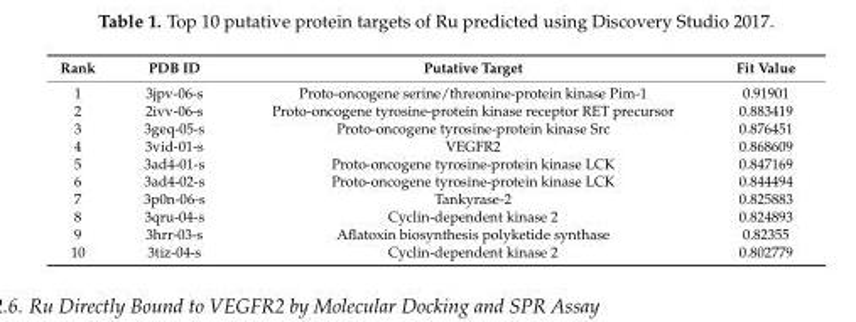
<table><thead><tr><td>Rank</td><td>PDB ID</td><td>Putative Target</td><td>Fit Value</td></tr></thead><tbody><tr><td>1</td><td>3jpv-06-s</td><td>Proto-oncogene serine/threonine-protein kinase Pim-1</td><td>0.91901</td></tr><tr><td>2</td><td>2ivv-06-s</td><td>Proto-oncogene tyrosine-protein kinase receptor RET precursor</td><td>0.883419</td></tr><tr><td>3</td><td>3geq-05-s</td><td>Proto-oncogene tyrosine-protein kinase Src</td><td>0.876451</td></tr><tr><td>4</td><td>3vid-01-s</td><td>VEGFR2</td><td>0.868609</td></tr><tr><td>5</td><td>3ad4-01-s</td><td>Proto-oncogene tyrosine-protein kinase LCK</td><td>0.847169</td></tr><tr><td>6</td><td>3ad4-02-s</td><td>Proto-oncogene tyrosine-protein kinase LCK</td><td>0.844494</td></tr><tr><td>7</td><td>3p0n-06-s</td><td>Tankyrase-2</td><td>0.825883</td></tr><tr><td>8</td><td>3qru-04-s</td><td>Cyclin-dependent kinase 2</td><td>0.824893</td></tr><tr><td>9</td><td>3hrr-03-s</td><td>Aflatoxin biosynthesis polyketide synthase</td><td>0.82355</td></tr><tr><td>10</td><td>3tiz-04-s</td><td>Cyclin-dependent kinase 2</td><td>0.802779</td></tr></tbody></table>